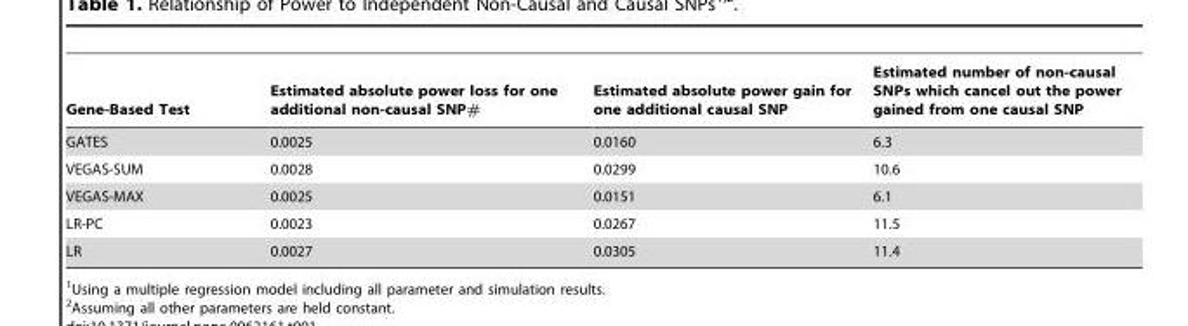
<table><thead><tr><td>Gene-Based Test</td><td>Estimated absolute power loss for one additional non-causal SNP#</td><td>Estimated absolute power gain for one additional causal SNP</td><td>Estimated number of non-causal SNPs which cancel out the power gained from one causal SNP</td></tr></thead><tbody><tr><td>GATES</td><td>0.0025</td><td>0.0160</td><td>6.3</td></tr><tr><td>VEGAS-SUM</td><td>0.0028</td><td>0.0299</td><td>10.6</td></tr><tr><td>VEGAS-MAX</td><td>0.0025</td><td>0.0151</td><td>6.1</td></tr><tr><td>LR-PC</td><td>0.0023</td><td>0.0267</td><td>11.5</td></tr><tr><td>LR</td><td>0.0027</td><td>0.0305</td><td>11.4</td></tr></tbody></table>